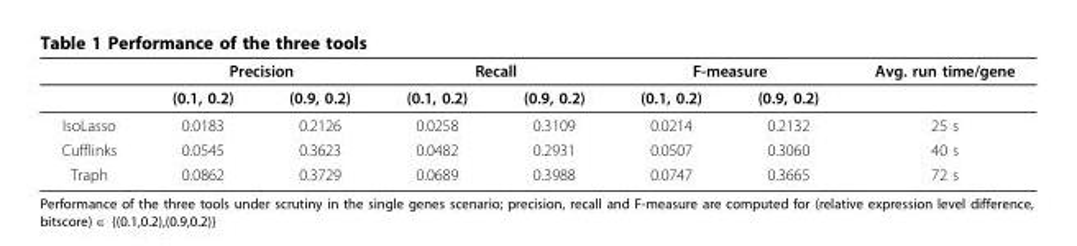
<table><thead><tr><td rowspan="2"></td><td colspan="2">Precision</td><td colspan="2">Recall</td><td colspan="2">F-measure</td><td rowspan="2">Avg. run time/gene</td></tr><tr><td>(0.1, 0.2)</td><td>(0.9, 0.2)</td><td>(0.1, 0.2)</td><td>(0.9, 0.2)</td><td>(0.1, 0.2)</td><td>(0.9, 0.2)</td></tr></thead><tbody><tr><td>IsoLasso</td><td>0.0183</td><td>0.2126</td><td>0.0258</td><td>0.3109</td><td>0.0214</td><td>0.2132</td><td>25 s</td></tr><tr><td>Cufflinks</td><td>0.0545</td><td>0.3623</td><td>0.0482</td><td>0.2931</td><td>0.0507</td><td>0.3060</td><td>40 s</td></tr><tr><td>Traph</td><td>0.0862</td><td>0.3729</td><td>0.0689</td><td>0.3988</td><td>0.0747</td><td>0.3665</td><td>72 s</td></tr></tbody></table>